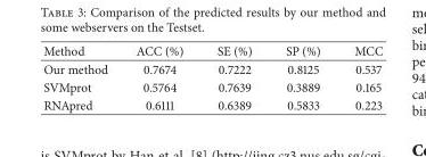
<table><thead><tr><td>Method</td><td>ACC (%)</td><td>SE (%)</td><td>SP (%)</td><td>MCC</td></tr></thead><tbody><tr><td>Our method</td><td>0.7674</td><td>0.7222</td><td>0.8125</td><td>0.537</td></tr><tr><td>SVMprot</td><td>0.5764</td><td>0.7639</td><td>0.3889</td><td>0.165</td></tr><tr><td>RNApred</td><td>0.6111</td><td>0.6389</td><td>0.5833</td><td>0.223</td></tr></tbody></table>